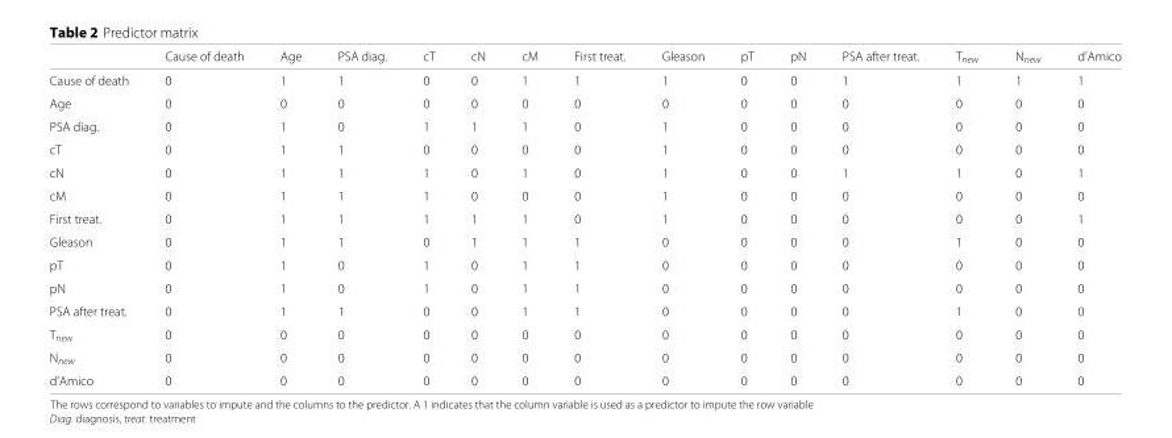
<table><thead><tr><td></td><td>Cause of death</td><td>Age</td><td>PSA diag.</td><td>cT</td><td>cN</td><td>cM</td><td>First treat.</td><td>Gleason</td><td>pT</td><td>pN</td><td>PSA after treat.</td><td>T<sub>new</sub></td><td>N<sub>new</sub></td><td>d’Amico</td></tr></thead><tbody><tr><td>Cause of death</td><td>0</td><td>1</td><td>1</td><td>0</td><td>0</td><td>1</td><td>1</td><td>1</td><td>0</td><td>0</td><td>1</td><td>1</td><td>1</td><td>1</td></tr><tr><td>Age</td><td>0</td><td>0</td><td>0</td><td>0</td><td>0</td><td>0</td><td>0</td><td>0</td><td>0</td><td>0</td><td>0</td><td>0</td><td>0</td><td>0</td></tr><tr><td>PSA diag.</td><td>0</td><td>1</td><td>0</td><td>1</td><td>1</td><td>1</td><td>0</td><td>1</td><td>0</td><td>0</td><td>0</td><td>0</td><td>0</td><td>0</td></tr><tr><td>cT</td><td>0</td><td>1</td><td>1</td><td>0</td><td>0</td><td>0</td><td>0</td><td>1</td><td>0</td><td>0</td><td>0</td><td>0</td><td>0</td><td>0</td></tr><tr><td>cN</td><td>0</td><td>1</td><td>1</td><td>1</td><td>0</td><td>1</td><td>0</td><td>1</td><td>0</td><td>0</td><td>1</td><td>1</td><td>0</td><td>1</td></tr><tr><td>cM</td><td>0</td><td>1</td><td>1</td><td>1</td><td>0</td><td>0</td><td>0</td><td>1</td><td>0</td><td>0</td><td>0</td><td>0</td><td>0</td><td>0</td></tr><tr><td>First treat.</td><td>0</td><td>1</td><td>1</td><td>1</td><td>1</td><td>1</td><td>0</td><td>1</td><td>0</td><td>0</td><td>0</td><td>0</td><td>0</td><td>1</td></tr><tr><td>Gleason</td><td>0</td><td>1</td><td>1</td><td>0</td><td>1</td><td>1</td><td>1</td><td>0</td><td>0</td><td>0</td><td>0</td><td>1</td><td>0</td><td>0</td></tr><tr><td>pT</td><td>0</td><td>1</td><td>0</td><td>1</td><td>0</td><td>1</td><td>1</td><td>0</td><td>0</td><td>0</td><td>0</td><td>0</td><td>0</td><td>0</td></tr><tr><td>pN</td><td>0</td><td>1</td><td>0</td><td>1</td><td>0</td><td>1</td><td>1</td><td>0</td><td>0</td><td>0</td><td>0</td><td>0</td><td>0</td><td>0</td></tr><tr><td>PSA after treat.</td><td>0</td><td>1</td><td>1</td><td>0</td><td>0</td><td>1</td><td>1</td><td>0</td><td>0</td><td>0</td><td>0</td><td>1</td><td>0</td><td>0</td></tr><tr><td>T<sub>new</sub></td><td>0</td><td>0</td><td>0</td><td>0</td><td>0</td><td>0</td><td>0</td><td>0</td><td>0</td><td>0</td><td>0</td><td>0</td><td>0</td><td>0</td></tr><tr><td>N<sub>new</sub></td><td>0</td><td>0</td><td>0</td><td>0</td><td>0</td><td>0</td><td>0</td><td>0</td><td>0</td><td>0</td><td>0</td><td>0</td><td>0</td><td>0</td></tr><tr><td>d’Amico</td><td>0</td><td>0</td><td>0</td><td>0</td><td>0</td><td>0</td><td>0</td><td>0</td><td>0</td><td>0</td><td>0</td><td>0</td><td>0</td><td>0</td></tr></tbody></table>